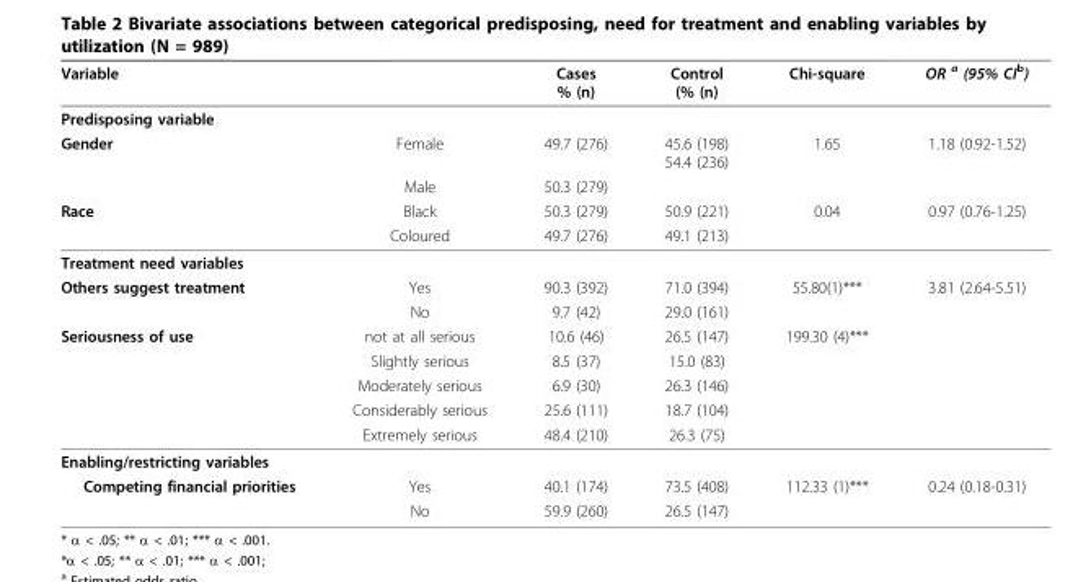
<table><thead><tr><td>Variable</td><td></td><td>Cases % (n)</td><td>Control (% (n)</td><td>Chi-square</td><td>OR <sup>a</sup> (95% CI<sup>b</sup>)</td></tr></thead><tbody><tr><td colspan="6">Predisposing variable</td></tr><tr><td rowspan="2">Gender</td><td>Female</td><td>49.7 (276)</td><td>45.6 (198) 54.4 (236)</td><td>1.65</td><td>1.18 (0.92-1.52)</td></tr><tr><td>Male</td><td>50.3 (279)</td><td></td><td></td><td></td></tr><tr><td rowspan="2">Race</td><td>Black</td><td>50.3 (279)</td><td>50.9 (221)</td><td>0.04</td><td>0.97 (0.76-1.25)</td></tr><tr><td>Coloured</td><td>49.7 (276)</td><td>49.1 (213)</td><td></td><td></td></tr><tr><td colspan="6">Treatment need variables</td></tr><tr><td rowspan="2">Others suggest treatment</td><td>Yes</td><td>90.3 (392)</td><td>71.0 (394)</td><td>55.80(1)***</td><td>3.81 (2.64-5.51)</td></tr><tr><td>No</td><td>9.7 (42)</td><td>29.0 (161)</td><td></td><td></td></tr><tr><td rowspan="5">Seriousness of use</td><td>not at all serious</td><td>10.6 (46)</td><td>26.5 (147)</td><td>199.30 (4)***</td><td></td></tr><tr><td>Slightly serious</td><td>8.5 (37)</td><td>15.0 (83)</td><td></td><td></td></tr><tr><td>Moderately serious</td><td>6.9 (30)</td><td>26.3 (146)</td><td></td><td></td></tr><tr><td>Considerably serious</td><td>25.6 (111)</td><td>18.7 (104)</td><td></td><td></td></tr><tr><td>Extremely serious</td><td>48.4 (210)</td><td>26.3 (75)</td><td></td><td></td></tr><tr><td colspan="6">Enabling/restricting variables</td></tr><tr><td rowspan="2">Competing financial priorities</td><td>Yes</td><td>40.1 (174)</td><td>73.5 (408)</td><td>112.33 (1)***</td><td>0.24 (0.18-0.31)</td></tr><tr><td>No</td><td>59.9 (260)</td><td>26.5 (147)</td><td></td><td></td></tr></tbody></table>